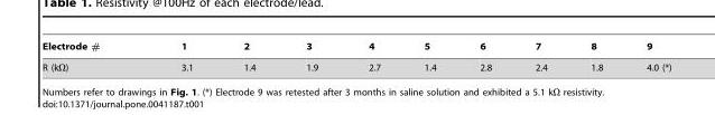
<table><thead><tr><td>Electrode #</td><td>1</td><td>2</td><td>3</td><td>4</td><td>5</td><td>6</td><td>7</td><td>8</td><td>9</td></tr></thead><tbody><tr><td>R (kΩ)</td><td>3.1</td><td>1.4</td><td>1.9</td><td>2.7</td><td>1.4</td><td>2.8</td><td>2.4</td><td>1.8</td><td>4.0 (*)</td></tr></tbody></table>